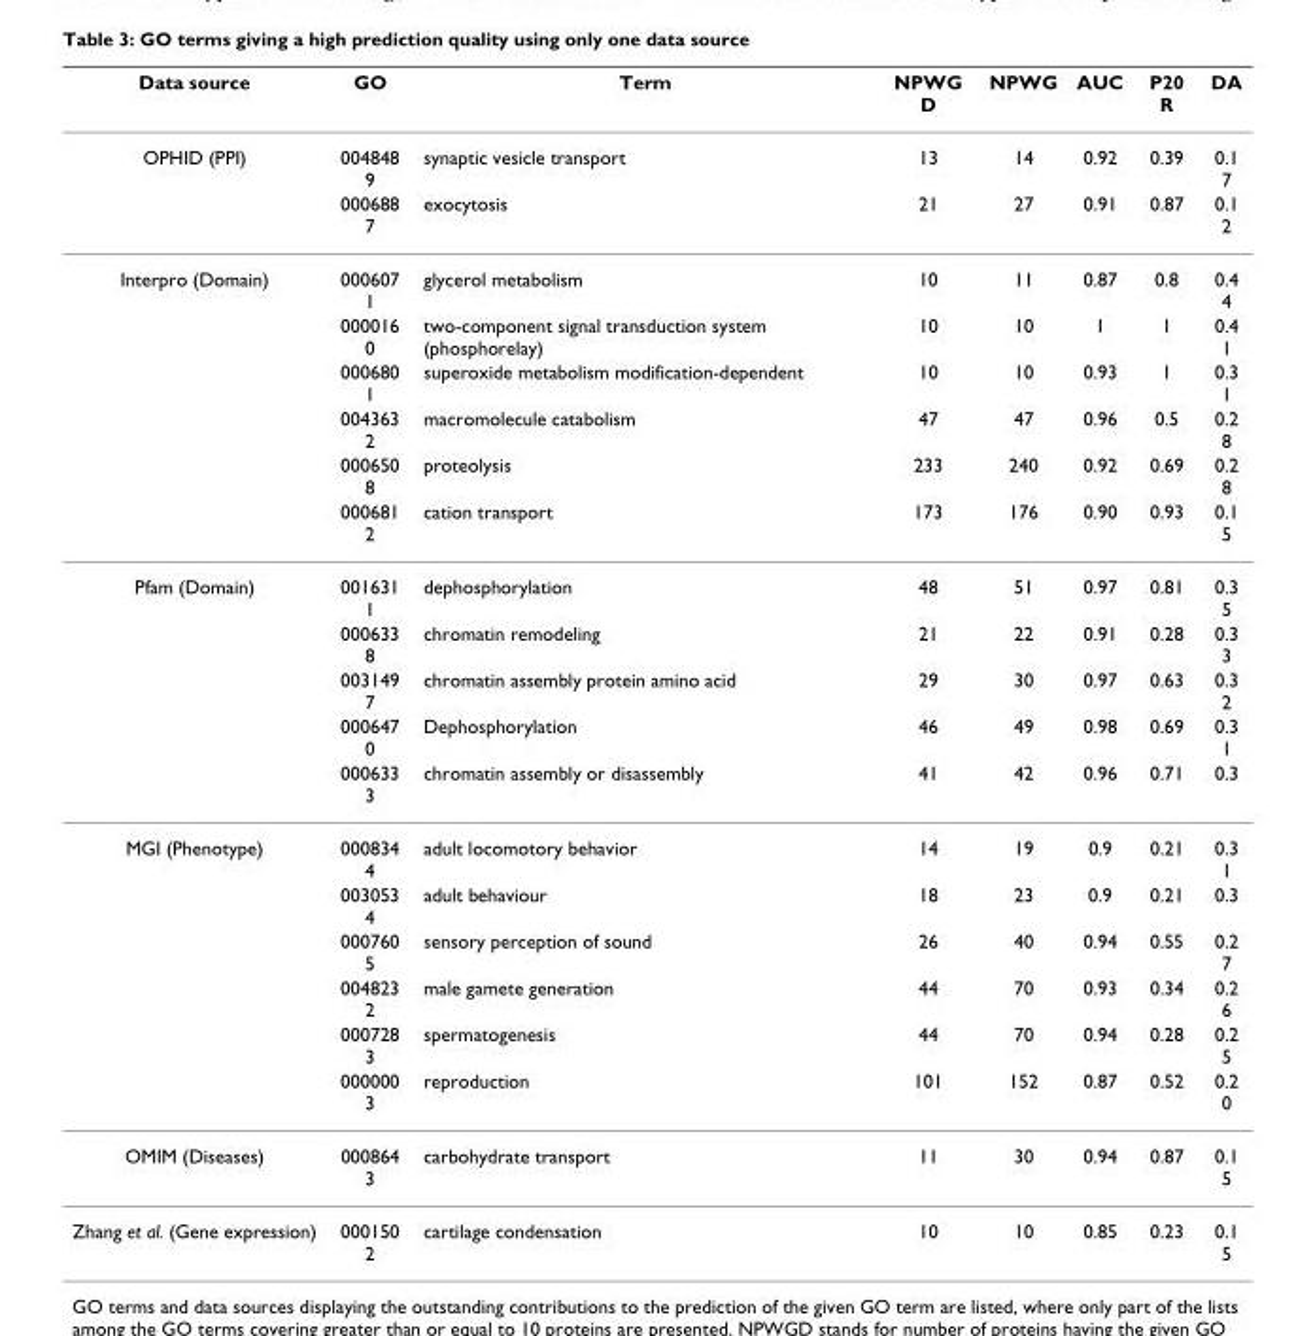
<table><thead><tr><td>Data source</td><td>GO</td><td>Term</td><td>NPWG D</td><td>NPWG</td><td>AUC</td><td>P20 R</td><td>DA</td></tr></thead><tbody><tr><td rowspan="2">OPHID (PPI)</td><td>004848 9</td><td>synaptic vesicle transport</td><td>13</td><td>14</td><td>0.92</td><td>0.39</td><td>0.1 7</td></tr><tr><td>000688 7</td><td>exocytosis</td><td>21</td><td>27</td><td>0.91</td><td>0.87</td><td>0.1 2</td></tr><tr><td rowspan="6">Interpro (Domain)</td><td>000607 1</td><td>glycerol metabolism</td><td>10</td><td>11</td><td>0.87</td><td>0.8</td><td>0.4 4</td></tr><tr><td>000016 0</td><td>two-component signal transduction system (phosphorelay)</td><td>10</td><td>10</td><td>1</td><td>1</td><td>0.4 1</td></tr><tr><td>000680 1</td><td>superoxide metabolism modification-dependent</td><td>10</td><td>10</td><td>0.93</td><td>1</td><td>0.3 1</td></tr><tr><td>004363 2</td><td>macromolecule catabolism</td><td>47</td><td>47</td><td>0.96</td><td>0.5</td><td>0.2 8</td></tr><tr><td>000650 8</td><td>proteolysis</td><td>233</td><td>240</td><td>0.92</td><td>0.69</td><td>0.2 8</td></tr><tr><td>000681 2</td><td>cation transport</td><td>173</td><td>176</td><td>0.90</td><td>0.93</td><td>0.1 5</td></tr><tr><td rowspan="5">Pfam (Domain)</td><td>001631 1</td><td>dephosphorylation</td><td>48</td><td>51</td><td>0.97</td><td>0.81</td><td>0.3 5</td></tr><tr><td>000633 8</td><td>chromatin remodeling</td><td>21</td><td>22</td><td>0.91</td><td>0.28</td><td>0.3 3</td></tr><tr><td>003149 7</td><td>chromatin assembly protein amino acid</td><td>29</td><td>30</td><td>0.97</td><td>0.63</td><td>0.3 2</td></tr><tr><td>000647 0</td><td>Dephosphorylation</td><td>46</td><td>49</td><td>0.98</td><td>0.69</td><td>0.3 1</td></tr><tr><td>000633 3</td><td>chromatin assembly or disassembly</td><td>41</td><td>42</td><td>0.96</td><td>0.71</td><td>0.3</td></tr><tr><td rowspan="6">MGI (Phenotype)</td><td>000834 4</td><td>adult locomotory behavior</td><td>14</td><td>19</td><td>0.9</td><td>0.21</td><td>0.3 1</td></tr><tr><td>003053 4</td><td>adult behaviour</td><td>18</td><td>23</td><td>0.9</td><td>0.21</td><td>0.3</td></tr><tr><td>000760 5</td><td>sensory perception of sound</td><td>26</td><td>40</td><td>0.94</td><td>0.55</td><td>0.2 7</td></tr><tr><td>004823 2</td><td>male gamete generation</td><td>44</td><td>70</td><td>0.93</td><td>0.34</td><td>0.2 6</td></tr><tr><td>000728 3</td><td>spermatogenesis</td><td>44</td><td>70</td><td>0.94</td><td>0.28</td><td>0.2 5</td></tr><tr><td>000000 3</td><td>reproduction</td><td>101</td><td>152</td><td>0.87</td><td>0.52</td><td>0.2 0</td></tr><tr><td>OMIM (Diseases)</td><td>000864 3</td><td>carbohydrate transport</td><td>11</td><td>30</td><td>0.94</td><td>0.87</td><td>0.1 5</td></tr><tr><td>Zhang et al. (Gene expression)</td><td>000150 2</td><td>cartilage condensation</td><td>10</td><td>10</td><td>0.85</td><td>0.23</td><td>0.1 5</td></tr></tbody></table>